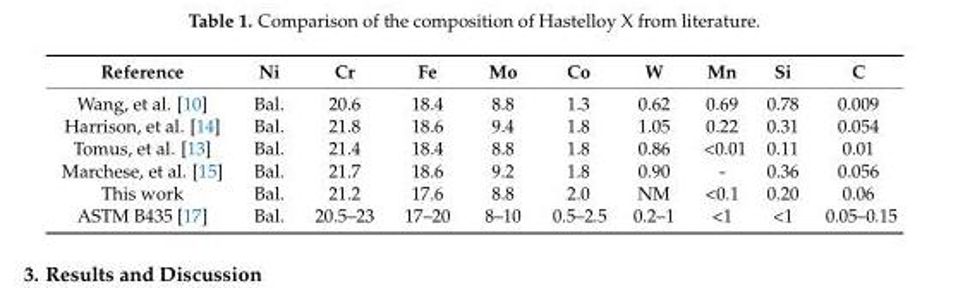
<table><thead><tr><td>Reference</td><td>Ni</td><td>Cr</td><td>Fe</td><td>Mo</td><td>Co</td><td>W</td><td>Mn</td><td>Si</td><td>C</td></tr></thead><tbody><tr><td>Wang, et al. [10]</td><td>Bal.</td><td>20.6</td><td>18.4</td><td>8.8</td><td>1.3</td><td>0.62</td><td>0.69</td><td>0.78</td><td>0.009</td></tr><tr><td>Harrison, et al. [14]</td><td>Bal.</td><td>21.8</td><td>18.6</td><td>9.4</td><td>1.8</td><td>1.05</td><td>0.22</td><td>0.31</td><td>0.054</td></tr><tr><td>Tomus, et al. [13]</td><td>Bal.</td><td>21.4</td><td>18.4</td><td>8.8</td><td>1.8</td><td>0.86</td><td>&lt;0.01</td><td>0.11</td><td>0.01</td></tr><tr><td>Marchese, et al. [15]</td><td>Bal.</td><td>21.7</td><td>18.6</td><td>9.2</td><td>1.8</td><td>0.90</td><td>-</td><td>0.36</td><td>0.056</td></tr><tr><td>This work</td><td>Bal.</td><td>21.2</td><td>17.6</td><td>8.8</td><td>2.0</td><td>NM</td><td>&lt;0.1</td><td>0.20</td><td>0.06</td></tr><tr><td>ASTM B435 [17]</td><td>Bal.</td><td>20.5–23</td><td>17–20</td><td>8–10</td><td>0.5–2.5</td><td>0.2–1</td><td>&lt;1</td><td>&lt;1</td><td>0.05–0.15</td></tr></tbody></table>